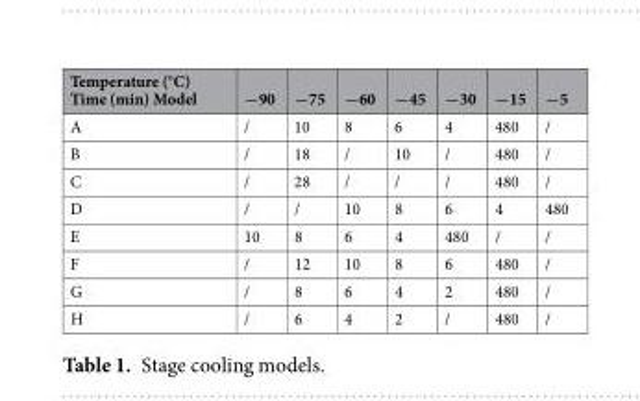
<table><thead><tr><td>Temperature (°C) Time (min) Model</td><td>−90</td><td>−75</td><td>−60</td><td>−45</td><td>−30</td><td>−15</td><td>−5</td></tr></thead><tbody><tr><td>A</td><td>/</td><td>10</td><td>8</td><td>6</td><td>4</td><td>480</td><td>/</td></tr><tr><td>B</td><td>/</td><td>18</td><td>/</td><td>10</td><td>/</td><td>480</td><td>/</td></tr><tr><td>C</td><td>/</td><td>28</td><td>/</td><td>/</td><td>/</td><td>480</td><td>/</td></tr><tr><td>D</td><td>/</td><td>/</td><td>10</td><td>8</td><td>6</td><td>4</td><td>480</td></tr><tr><td>E</td><td>10</td><td>8</td><td>6</td><td>4</td><td>480</td><td>/</td><td>/</td></tr><tr><td>F</td><td>/</td><td>12</td><td>10</td><td>8</td><td>6</td><td>480</td><td>/</td></tr><tr><td>G</td><td>/</td><td>8</td><td>6</td><td>4</td><td>2</td><td>480</td><td>/</td></tr><tr><td>H</td><td>/</td><td>6</td><td>4</td><td>2</td><td>/</td><td>480</td><td>/</td></tr></tbody></table>